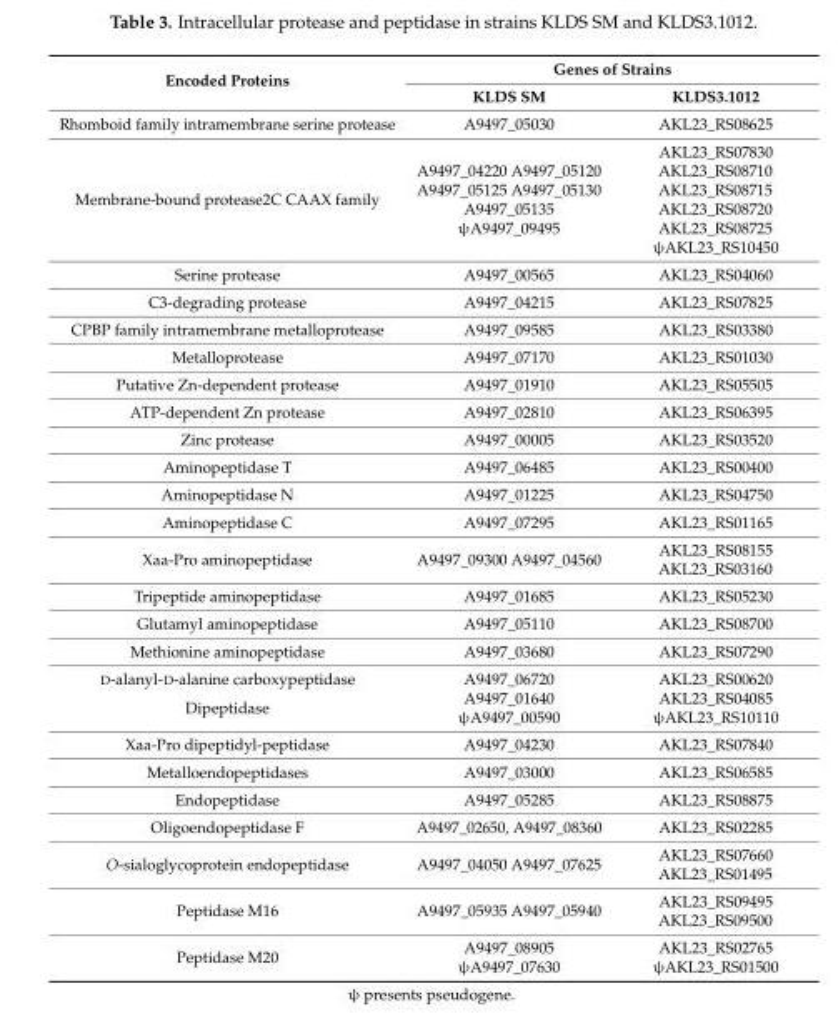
<table><thead><tr><td rowspan="2">Encoded Proteins</td><td colspan="2">Genes of Strains</td></tr><tr><td>KLDS SM</td><td>KLDS3.1012</td></tr></thead><tbody><tr><td>Rhomboid family intramembrane serine protease</td><td>A9497_05030</td><td>AKL23_RS08625</td></tr><tr><td>Membrane-bound protease2C CAAX family</td><td>A9497_04220 A9497_05120 A9497_05125 A9497_05130 A9497_05135 ψA9497_09495</td><td>AKL23_RS07830 AKL23_RS08710 AKL23_RS08715 AKL23_RS08720 AKL23_RS08725 ψAKL23_RS10450</td></tr><tr><td>Serine protease</td><td>A9497_00565</td><td>AKL23_RS04060</td></tr><tr><td>C3-degrading protease</td><td>A9497_04215</td><td>AKL23_RS07825</td></tr><tr><td>CPBP family intramembrane metalloprotease</td><td>A9497_09585</td><td>AKL23_RS03380</td></tr><tr><td>Metalloprotease</td><td>A9497_07170</td><td>AKL23_RS01030</td></tr><tr><td>Putative Zn-dependent protease</td><td>A9497_01910</td><td>AKL23_RS05505</td></tr><tr><td>ATP-dependent Zn protease</td><td>A9497_02810</td><td>AKL23_RS06395</td></tr><tr><td>Zinc protease</td><td>A9497_00005</td><td>AKL23_RS03520</td></tr><tr><td>Aminopeptidase T</td><td>A9497_06485</td><td>AKL23_RS00400</td></tr><tr><td>Aminopeptidase N</td><td>A9497_01225</td><td>AKL23_RS04750</td></tr><tr><td>Aminopeptidase C</td><td>A9497_07295</td><td>AKL23_RS01165</td></tr><tr><td>Xaa-Pro aminopeptidase</td><td>A9497_09300 A9497_04560</td><td>AKL23_RS08155 AKL23_RS03160</td></tr><tr><td>Tripeptide aminopeptidase</td><td>A9497_01685</td><td>AKL23_RS05230</td></tr><tr><td>Glutamyl aminopeptidase</td><td>A9497_05110</td><td>AKL23_RS08700</td></tr><tr><td>Methionine aminopeptidase</td><td>A9497_03680</td><td>AKL23_RS07290</td></tr><tr><td>D-alanyl-D-alanine carboxypeptidase</td><td>A9497_06720</td><td>AKL23_RS00620</td></tr><tr><td>Dipeptidase</td><td>A9497_01640 ψA9497_00590</td><td>AKL23_RS04085 ψAKL23_RS10110</td></tr><tr><td>Xaa-Pro dipeptidyl-peptidase</td><td>A9497_04230</td><td>AKL23_RS07840</td></tr><tr><td>Metalloendopeptidases</td><td>A9497_03000</td><td>AKL23_RS06585</td></tr><tr><td>Endopeptidase</td><td>A9497_05285</td><td>AKL23_RS08875</td></tr><tr><td>Oligoendopeptidase F</td><td>A9497_02650, A9497_08360</td><td>AKL23_RS02285</td></tr><tr><td>O-sialoglycoprotein endopeptidase</td><td>A9497_04050 A9497_07625</td><td>AKL23_RS07660 AKL23_RS01495</td></tr><tr><td>Peptidase M16</td><td>A9497_05935 A9497_05940</td><td>AKL23_RS09495 AKL23_RS09500</td></tr><tr><td>Peptidase M20</td><td>A9497_08905 ψA9497_07630</td><td>AKL23_RS02765 ψAKL23_RS01500</td></tr></tbody></table>